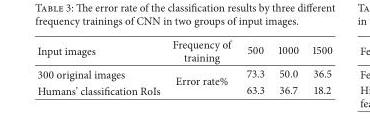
<table><thead><tr><td>Input images</td><td>Frequency of training</td><td>500</td><td>1000</td><td>1500</td></tr></thead><tbody><tr><td>300 original images</td><td rowspan="2">Error rate%</td><td>73.3</td><td>50.0</td><td>36.5</td></tr><tr><td>Humans’ classification RoIs</td><td>63.3</td><td>36.7</td><td>18.2</td></tr></tbody></table>